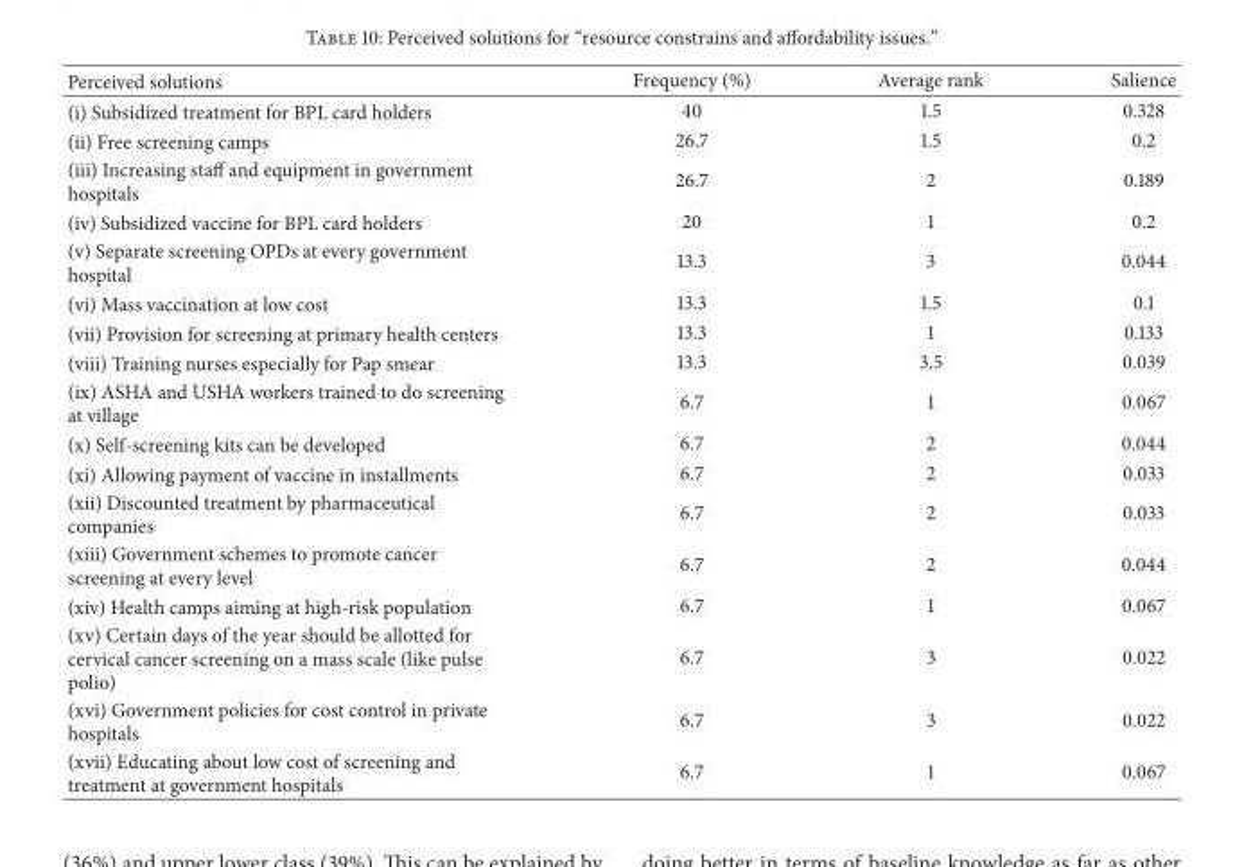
<table><thead><tr><td>Perceived solutions</td><td>Frequency (%)</td><td>Average rank</td><td>Salience</td></tr></thead><tbody><tr><td>(i) Subsidized treatment for BPL card holders</td><td>40</td><td>1.5</td><td>0.328</td></tr><tr><td>(ii) Free screening camps</td><td>26.7</td><td>1.5</td><td>0.2</td></tr><tr><td>(iii) Increasing staff and equipment in government hospitals</td><td>26.7</td><td>2</td><td>0.189</td></tr><tr><td>(iv) Subsidized vaccine for BPL card holders</td><td>20</td><td>1</td><td>0.2</td></tr><tr><td>(v) Separate screening OPDs at every government hospital</td><td>13.3</td><td>3</td><td>0.044</td></tr><tr><td>(vi) Mass vaccination at low cost</td><td>13.3</td><td>1.5</td><td>0.1</td></tr><tr><td>(vii) Provision for screening at primary health centers</td><td>13.3</td><td>1</td><td>0.133</td></tr><tr><td>(viii) Training nurses especially for Pap smear</td><td>13.3</td><td>3.5</td><td>0.039</td></tr><tr><td>(ix) ASHA and USHA workers trained to do screening at village</td><td>6.7</td><td>1</td><td>0.067</td></tr><tr><td>(x) Self-screening kits can be developed</td><td>6.7</td><td>2</td><td>0.044</td></tr><tr><td>(xi) Allowing payment of vaccine in installments</td><td>6.7</td><td>2</td><td>0.033</td></tr><tr><td>(xii) Discounted treatment by pharmaceutical companies</td><td>6.7</td><td>2</td><td>0.033</td></tr><tr><td>(xiii) Government schemes to promote cancer screening at every level</td><td>6.7</td><td>2</td><td>0.044</td></tr><tr><td>(xiv) Health camps aiming at high-risk population</td><td>6.7</td><td>1</td><td>0.067</td></tr><tr><td>(xv) Certain days of the year should be allotted for cervical cancer screening on a mass scale (like pulse polio)</td><td>6.7</td><td>3</td><td>0.022</td></tr><tr><td>(xvi) Government policies for cost control in private hospitals</td><td>6.7</td><td>3</td><td>0.022</td></tr><tr><td>(xvii) Educating about low cost of screening and treatment at government hospitals</td><td>6.7</td><td>1</td><td>0.067</td></tr></tbody></table>